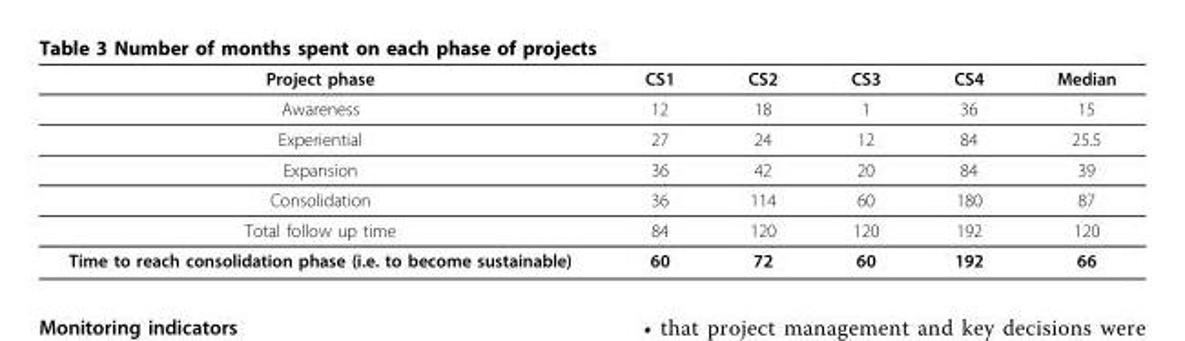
<table><thead><tr><td>Project phase</td><td>CS1</td><td>CS2</td><td>CS3</td><td>CS4</td><td>Median</td></tr></thead><tbody><tr><td>Awareness</td><td>12</td><td>18</td><td>1</td><td>36</td><td>15</td></tr><tr><td>Experiential</td><td>27</td><td>24</td><td>12</td><td>84</td><td>25.5</td></tr><tr><td>Expansion</td><td>36</td><td>42</td><td>20</td><td>84</td><td>39</td></tr><tr><td>Consolidation</td><td>36</td><td>114</td><td>60</td><td>180</td><td>87</td></tr><tr><td>Total follow up time</td><td>84</td><td>120</td><td>120</td><td>192</td><td>120</td></tr><tr><td>Time to reach consolidation phase (i.e. to become sustainable)</td><td>60</td><td>72</td><td>60</td><td>192</td><td>66</td></tr></tbody></table>